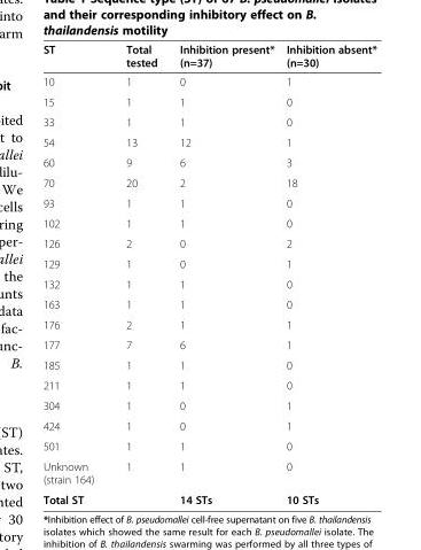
<table><thead><tr><td>ST</td><td>Total tested</td><td>Inhibition present* (n=37)</td><td>Inhibition absent* (n=30)</td></tr></thead><tbody><tr><td>10</td><td>1</td><td>0</td><td>1</td></tr><tr><td>15</td><td>1</td><td>1</td><td>0</td></tr><tr><td>33</td><td>1</td><td>1</td><td>0</td></tr><tr><td>54</td><td>13</td><td>12</td><td>1</td></tr><tr><td>60</td><td>9</td><td>6</td><td>3</td></tr><tr><td>70</td><td>20</td><td>2</td><td>18</td></tr><tr><td>93</td><td>1</td><td>1</td><td>0</td></tr><tr><td>102</td><td>1</td><td>1</td><td>0</td></tr><tr><td>126</td><td>2</td><td>0</td><td>2</td></tr><tr><td>129</td><td>1</td><td>0</td><td>1</td></tr><tr><td>132</td><td>1</td><td>1</td><td>0</td></tr><tr><td>163</td><td>1</td><td>1</td><td>0</td></tr><tr><td>176</td><td>2</td><td>1</td><td>1</td></tr><tr><td>177</td><td>7</td><td>6</td><td>1</td></tr><tr><td>185</td><td>1</td><td>1</td><td>0</td></tr><tr><td>211</td><td>1</td><td>1</td><td>0</td></tr><tr><td>304</td><td>1</td><td>0</td><td>1</td></tr><tr><td>424</td><td>1</td><td>0</td><td>1</td></tr><tr><td>501</td><td>1</td><td>1</td><td>0</td></tr><tr><td>Unknown (strain 164)</td><td>1</td><td>1</td><td>0</td></tr><tr><td>Total ST</td><td></td><td>14 STs</td><td>10 STs</td></tr></tbody></table>